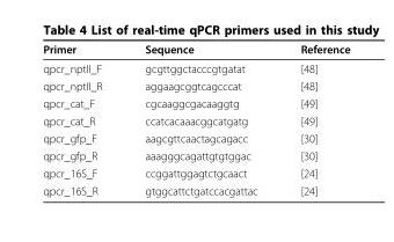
<table><thead><tr><td>Primer</td><td>Sequence</td><td>Reference</td></tr></thead><tbody><tr><td>qpcr_nptII_F</td><td>gcgttggctacccgtgatat</td><td>[48]</td></tr><tr><td>qpcr_nptII_R</td><td>aggaagcggtcagcccat</td><td>[48]</td></tr><tr><td>qpcr_cat_F</td><td>cgcaaggcgacaaggtg</td><td>[49]</td></tr><tr><td>qpcr_cat_R</td><td>ccatcacaaacggcatgatg</td><td>[49]</td></tr><tr><td>qpcr_gfp_F</td><td>aagcgttcaactagcagacc</td><td>[30]</td></tr><tr><td>qpcr_gfp_R</td><td>aaagggcagattgtgtggac</td><td>[30]</td></tr><tr><td>qpcr_16S_F</td><td>ccggattggagtctgcaact</td><td>[24]</td></tr><tr><td>qpcr_16S_R</td><td>gtggcattctgatccacgattac</td><td>[24]</td></tr></tbody></table>